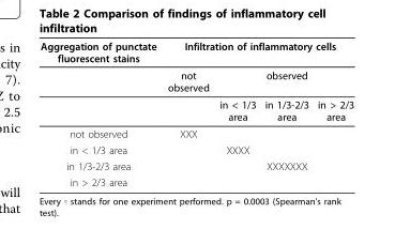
<table><thead><tr><td rowspan="3">Aggregation of punctate fluorescent stains</td><td colspan="4">Infiltration of inflammatory cells</td></tr><tr><td rowspan="2">not observed</td><td colspan="3">observed</td></tr><tr><td>in &lt; 1/3 area</td><td>in 1/3-2/3 area</td><td>in &gt; 2/3 area</td></tr></thead><tbody><tr><td>not observed</td><td>XXX</td><td></td><td></td><td></td></tr><tr><td>in &lt; 1/3 area</td><td></td><td>XXXX</td><td></td><td></td></tr><tr><td>in 1/3-2/3 area</td><td></td><td></td><td>XXXXXXX</td><td></td></tr><tr><td>in &gt; 2/3 area</td><td></td><td></td><td></td><td></td></tr></tbody></table>